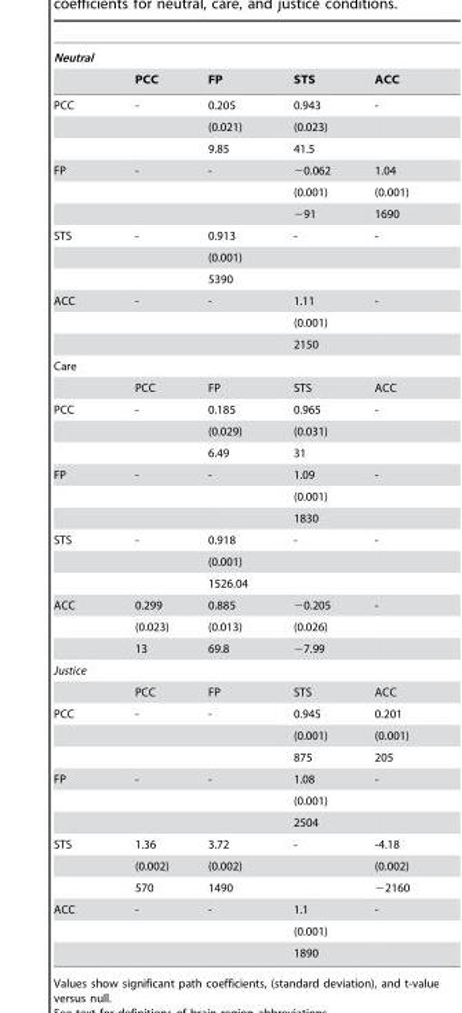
<table><thead><tr><td rowspan="2">Neutral</td><td rowspan="2">PCC</td><td rowspan="2">FP</td><td rowspan="2">STS</td><td rowspan="2">ACC</td></tr><tr></tr></thead><tbody><tr><td rowspan="3">PCC</td><td>-</td><td>0.205</td><td>0.943</td><td>-</td></tr><tr><td></td><td>(0.021)</td><td>(0.023)</td><td></td></tr><tr><td></td><td>9.85</td><td>41.5</td><td></td></tr><tr><td rowspan="3">FP</td><td>-</td><td>-</td><td>−0.062</td><td>1.04</td></tr><tr><td></td><td></td><td>(0.001)</td><td>(0.001)</td></tr><tr><td></td><td></td><td>−91</td><td>1690</td></tr><tr><td rowspan="3">STS</td><td>-</td><td>0.913</td><td>-</td><td>-</td></tr><tr><td></td><td>(0.001)</td><td></td><td></td></tr><tr><td></td><td>5390</td><td></td><td></td></tr><tr><td rowspan="3">ACC</td><td>-</td><td>-</td><td>1.11</td><td>-</td></tr><tr><td></td><td></td><td>(0.001)</td><td></td></tr><tr><td></td><td></td><td>2150</td><td></td></tr><tr><td colspan="5">Care</td></tr><tr><td></td><td>PCC</td><td>FP</td><td>STS</td><td>ACC</td></tr><tr><td rowspan="3">PCC</td><td>-</td><td>0.185</td><td>0.965</td><td>-</td></tr><tr><td></td><td>(0.029)</td><td>(0.031)</td><td></td></tr><tr><td></td><td>6.49</td><td>31</td><td></td></tr><tr><td rowspan="3">FP</td><td>-</td><td>-</td><td>1.09</td><td>-</td></tr><tr><td></td><td></td><td>(0.001)</td><td></td></tr><tr><td></td><td></td><td>1830</td><td></td></tr><tr><td rowspan="3">STS</td><td>-</td><td>0.918</td><td>-</td><td>-</td></tr><tr><td></td><td>(0.001)</td><td></td><td></td></tr><tr><td></td><td>1526.04</td><td></td><td></td></tr><tr><td rowspan="3">ACC</td><td>0.299</td><td>0.885</td><td>−0.205</td><td>-</td></tr><tr><td>(0.023)</td><td>(0.013)</td><td>(0.026)</td><td></td></tr><tr><td>13</td><td>69.8</td><td>−7.99</td><td></td></tr><tr><td colspan="5">Justice</td></tr><tr><td></td><td>PCC</td><td>FP</td><td>STS</td><td>ACC</td></tr><tr><td rowspan="3">PCC</td><td>-</td><td>-</td><td>0.945</td><td>0.201</td></tr><tr><td></td><td></td><td>(0.001)</td><td>(0.001)</td></tr><tr><td></td><td></td><td>875</td><td>205</td></tr><tr><td rowspan="3">FP</td><td>-</td><td>-</td><td>1.08</td><td>-</td></tr><tr><td></td><td></td><td>(0.001)</td><td></td></tr><tr><td></td><td></td><td>2504</td><td></td></tr><tr><td rowspan="3">STS</td><td>1.36</td><td>3.72</td><td>-</td><td>-4.18</td></tr><tr><td>(0.002)</td><td>(0.002)</td><td></td><td>(0.002)</td></tr><tr><td>570</td><td>1490</td><td></td><td>−2160</td></tr><tr><td rowspan="3">ACC</td><td>-</td><td>-</td><td>1.1</td><td>-</td></tr><tr><td></td><td></td><td>(0.001)</td><td></td></tr><tr><td></td><td></td><td>1890</td><td></td></tr></tbody></table>